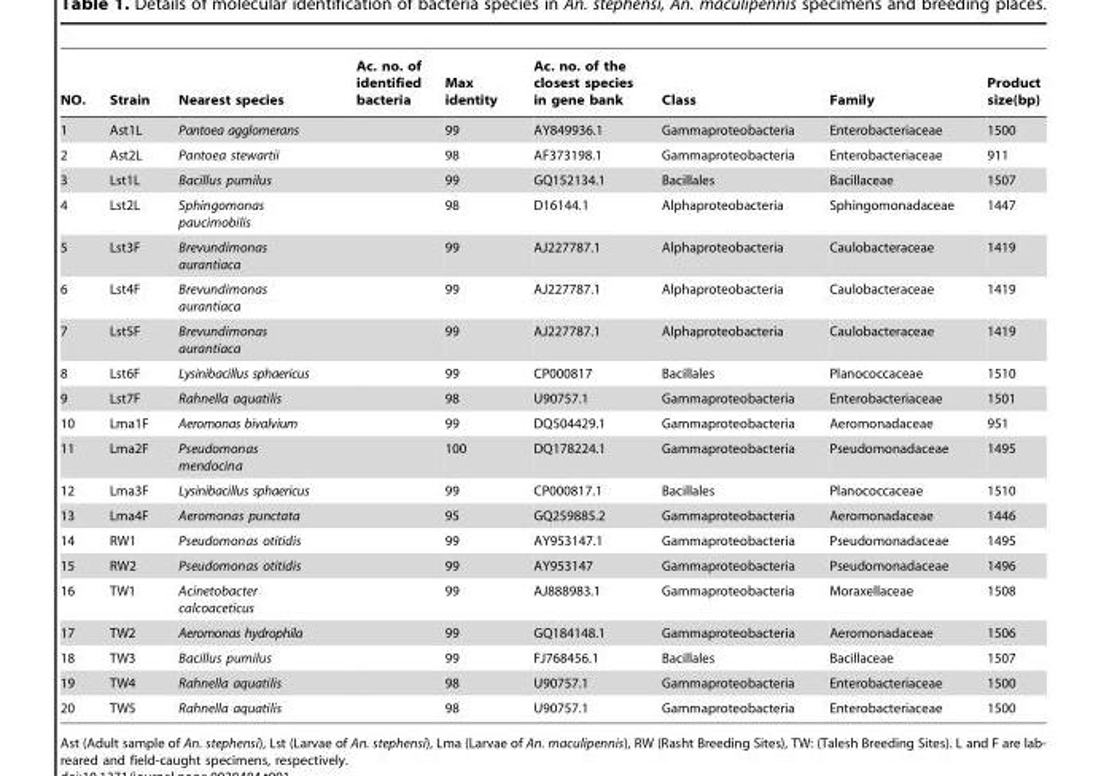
<table><thead><tr><td>NO.</td><td>Strain</td><td>Nearest species</td><td>Ac. no. of identified bacteria</td><td>Max identity</td><td>Ac. no. of the closest species in gene bank</td><td>Class</td><td>Family</td><td>Product size(bp)</td></tr></thead><tbody><tr><td>1</td><td>Ast1L</td><td>Pantoea agglomerans</td><td></td><td>99</td><td>AY849936.1</td><td>Gammaproteobacteria</td><td>Enterobacteriaceae</td><td>1500</td></tr><tr><td>2</td><td>Ast2L</td><td>Pantoea stewartii</td><td></td><td>98</td><td>AF373198.1</td><td>Gammaproteobacteria</td><td>Enterobacteriaceae</td><td>911</td></tr><tr><td>3</td><td>Lst1L</td><td>Bacillus pumilus</td><td></td><td>99</td><td>GQ152134.1</td><td>Bacillales</td><td>Bacillaceae</td><td>1507</td></tr><tr><td>4</td><td>Lst2L</td><td>Sphingomonas paucimobilis</td><td></td><td>98</td><td>D16144.1</td><td>Alphaproteobacteria</td><td>Sphingomonadaceae</td><td>1447</td></tr><tr><td>5</td><td>Lst3F</td><td>Brevundimonas aurantiaca</td><td></td><td>99</td><td>AJ227787.1</td><td>Alphaproteobacteria</td><td>Caulobacteraceae</td><td>1419</td></tr><tr><td>6</td><td>Lst4F</td><td>Brevundimonas aurantiaca</td><td></td><td>99</td><td>AJ227787.1</td><td>Alphaproteobacteria</td><td>Caulobacteraceae</td><td>1419</td></tr><tr><td>7</td><td>Lst5F</td><td>Brevundimonas aurantiaca</td><td></td><td>99</td><td>AJ227787.1</td><td>Alphaproteobacteria</td><td>Caulobacteraceae</td><td>1419</td></tr><tr><td>8</td><td>Lst6F</td><td>Lysinibacillus sphaericus</td><td></td><td>99</td><td>CP000817</td><td>Bacillales</td><td>Planococcaceae</td><td>1510</td></tr><tr><td>9</td><td>Lst7F</td><td>Rahnella aquatilis</td><td></td><td>98</td><td>U90757.1</td><td>Gammaproteobacteria</td><td>Enterobacteriaceae</td><td>1501</td></tr><tr><td>10</td><td>Lma1F</td><td>Aeromonas bivalvium</td><td></td><td>99</td><td>DQ504429.1</td><td>Gammaproteobacteria</td><td>Aeromonadaceae</td><td>951</td></tr><tr><td>11</td><td>Lma2F</td><td>Pseudomonas mendocina</td><td></td><td>100</td><td>DQ178224.1</td><td>Gammaproteobacteria</td><td>Pseudomonadaceae</td><td>1495</td></tr><tr><td>12</td><td>Lma3F</td><td>Lysinibacillus sphaericus</td><td></td><td>99</td><td>CP000817.1</td><td>Bacillales</td><td>Planococcaceae</td><td>1510</td></tr><tr><td>13</td><td>Lma4F</td><td>Aeromonas punctata</td><td></td><td>95</td><td>GQ259885.2</td><td>Gammaproteobacteria</td><td>Aeromonadaceae</td><td>1446</td></tr><tr><td>14</td><td>RW1</td><td>Pseudomonas otitidis</td><td></td><td>99</td><td>AY953147.1</td><td>Gammaproteobacteria</td><td>Pseudomonadaceae</td><td>1495</td></tr><tr><td>15</td><td>RW2</td><td>Pseudomonas otitidis</td><td></td><td>99</td><td>AY953147</td><td>Gammaproteobacteria</td><td>Pseudomonadaceae</td><td>1496</td></tr><tr><td>16</td><td>TW1</td><td>Acinetobacter calcoaceticus</td><td></td><td>99</td><td>AJ888983.1</td><td>Gammaproteobacteria</td><td>Moraxellaceae</td><td>1508</td></tr><tr><td>17</td><td>TW2</td><td>Aeromonas hydrophila</td><td></td><td>99</td><td>GQ184148.1</td><td>Gammaproteobacteria</td><td>Aeromonadaceae</td><td>1506</td></tr><tr><td>18</td><td>TW3</td><td>Bacillus pumilus</td><td></td><td>99</td><td>FJ768456.1</td><td>Bacillales</td><td>Bacillaceae</td><td>1507</td></tr><tr><td>19</td><td>TW4</td><td>Rahnella aquatilis</td><td></td><td>98</td><td>U90757.1</td><td>Gammaproteobacteria</td><td>Enterobacteriaceae</td><td>1500</td></tr><tr><td>20</td><td>TW5</td><td>Rahnella aquatilis</td><td></td><td>98</td><td>U90757.1</td><td>Gammaproteobacteria</td><td>Enterobacteriaceae</td><td>1500</td></tr></tbody></table>